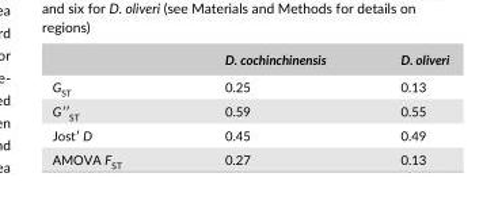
<table><thead><tr><td></td><td>D. cochinchinensis</td><td>D. oliveri</td></tr></thead><tbody><tr><td>G<sub>ST</sub></td><td>0.25</td><td>0.13</td></tr><tr><td>G′′<sub>ST</sub></td><td>0.59</td><td>0.55</td></tr><tr><td>Jost′ D</td><td>0.45</td><td>0.49</td></tr><tr><td>AMOVA F<sub>ST</sub></td><td>0.27</td><td>0.13</td></tr></tbody></table>